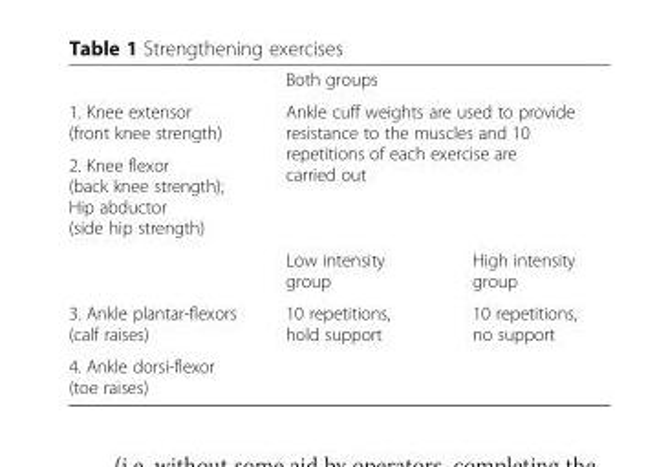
<table><thead><tr><td rowspan="4">1. Knee extensor (front knee strength) 2. Knee flexor (back knee strength); Hip abductor (side hip strength)</td><td rowspan="3" colspan="2">Both groups Ankle cuff weights are used to provide resistance to the muscles and 10 repetitions of each exercise are carried out</td></tr><tr></tr><tr></tr><tr><td>Low intensity group</td><td>High intensity group</td></tr></thead><tbody><tr><td>3. Ankle plantar-flexors (calf raises)</td><td rowspan="2">10 repetitions, hold support</td><td rowspan="2">10 repetitions, no support</td></tr><tr><td>4. Ankle dorsi-flexor (toe raises)</td></tr></tbody></table>